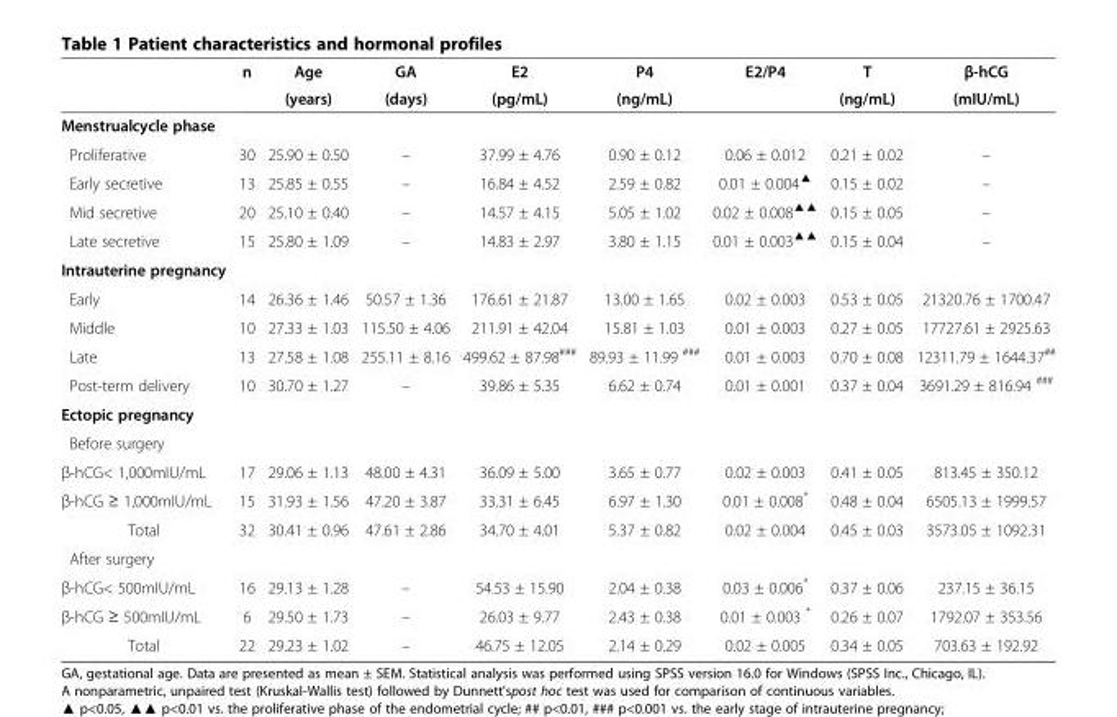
<table><thead><tr><td rowspan="2"></td><td rowspan="2">n</td><td rowspan="2">Age (years)</td><td rowspan="2">GA (days)</td><td rowspan="2">E2 (pg/mL)</td><td rowspan="2">P4 (ng/mL)</td><td rowspan="2">E2/P4</td><td rowspan="2">T (ng/mL)</td><td rowspan="2">β-hCG (mIU/mL)</td></tr><tr></tr></thead><tbody><tr><td colspan="9">Menstrualcycle phase</td></tr><tr><td>Proliferative</td><td>30</td><td>25.90 ± 0.50</td><td>–</td><td>37.99 ± 4.76</td><td>0.90 ± 0.12</td><td>0.06 ± 0.012</td><td>0.21 ± 0.02</td><td>–</td></tr><tr><td>Early secretive</td><td>13</td><td>25.85 ± 0.55</td><td>–</td><td>16.84 ± 4.52</td><td>2.59 ± 0.82</td><td>0.01 ± 0.004<sup>▲</sup></td><td>0.15 ± 0.02</td><td>–</td></tr><tr><td>Mid secretive</td><td>20</td><td>25.10 ± 0.40</td><td>–</td><td>14.57 ± 4.15</td><td>5.05 ± 1.02</td><td>0.02 ± 0.008<sup>▲▲</sup></td><td>0.15 ± 0.05</td><td>–</td></tr><tr><td>Late secretive</td><td>15</td><td>25.80 ± 1.09</td><td>–</td><td>14.83 ± 2.97</td><td>3.80 ± 1.15</td><td>0.01 ± 0.003<sup>▲▲</sup></td><td>0.15 ± 0.04</td><td>–</td></tr><tr><td colspan="9">Intrauterine pregnancy</td></tr><tr><td>Early</td><td>14</td><td>26.36 ± 1.46</td><td>50.57 ± 1.36</td><td>176.61 ± 21.87</td><td>13.00 ± 1.65</td><td>0.02 ± 0.003</td><td>0.53 ± 0.05</td><td>21320.76 ± 1700.47</td></tr><tr><td>Middle</td><td>10</td><td>27.33 ± 1.03</td><td>115.50 ± 4.06</td><td>211.91 ± 42.04</td><td>15.81 ± 1.03</td><td>0.01 ± 0.003</td><td>0.27 ± 0.05</td><td>17727.61 ± 2925.63</td></tr><tr><td>Late</td><td>13</td><td>27.58 ± 1.08</td><td>255.11 ± 8.16</td><td>499.62 ± 87.98<sup>###</sup></td><td>89.93 ± 11.99 <sup>###</sup></td><td>0.01 ± 0.003</td><td>0.70 ± 0.08</td><td>12311.79 ± 1644.37<sup>##</sup></td></tr><tr><td>Post-term delivery</td><td>10</td><td>30.70 ± 1.27</td><td>–</td><td>39.86 ± 5.35</td><td>6.62 ± 0.74</td><td>0.01 ± 0.001</td><td>0.37 ± 0.04</td><td>3691.29 ± 816.94 <sup>###</sup></td></tr><tr><td colspan="9">Ectopic pregnancy</td></tr><tr><td colspan="9">Before surgery</td></tr><tr><td>β-hCG&lt; 1,000mIU/mL</td><td>17</td><td>29.06 ± 1.13</td><td>48.00 ± 4.31</td><td>36.09 ± 5.00</td><td>3.65 ± 0.77</td><td>0.02 ± 0.003</td><td>0.41 ± 0.05</td><td>813.45 ± 350.12</td></tr><tr><td>β-hCG ≥ 1,000mIU/mL</td><td>15</td><td>31.93 ± 1.56</td><td>47.20 ± 3.87</td><td>33.31 ± 6.45</td><td>6.97 ± 1.30</td><td>0.01 ± 0.008*</td><td>0.48 ± 0.04</td><td>6505.13 ± 1999.57</td></tr><tr><td>Total</td><td>32</td><td>30.41 ± 0.96</td><td>47.61 ± 2.86</td><td>34.70 ± 4.01</td><td>5.37 ± 0.82</td><td>0.02 ± 0.004</td><td>0.45 ± 0.03</td><td>3573.05 ± 1092.31</td></tr><tr><td colspan="9">After surgery</td></tr><tr><td>β-hCG&lt; 500mIU/mL</td><td>16</td><td>29.13 ± 1.28</td><td>–</td><td>54.53 ± 15.90</td><td>2.04 ± 0.38</td><td>0.03 ± 0.006*</td><td>0.37 ± 0.06</td><td>237.15 ± 36.15</td></tr><tr><td>β-hCG ≥ 500mIU/mL</td><td>6</td><td>29.50 ± 1.73</td><td>–</td><td>26.03 ± 9.77</td><td>2.43 ± 0.38</td><td>0.01 ± 0.003 *</td><td>0.26 ± 0.07</td><td>1792.07 ± 353.56</td></tr><tr><td>Total</td><td>22</td><td>29.23 ± 1.02</td><td>–</td><td>46.75 ± 12.05</td><td>2.14 ± 0.29</td><td>0.02 ± 0.005</td><td>0.34 ± 0.05</td><td>703.63 ± 192.92</td></tr></tbody></table>